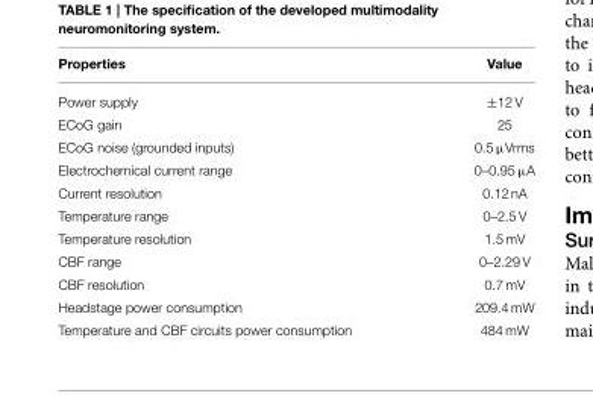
<table><thead><tr><td>Properties</td><td>Value</td></tr></thead><tbody><tr><td>Power supply</td><td>±12 V</td></tr><tr><td>ECoG gain</td><td>25</td></tr><tr><td>ECoG noise (grounded inputs)</td><td>0.5 µVrms</td></tr><tr><td>Electrochemical current range</td><td>0–0.95 µA</td></tr><tr><td>Current resolution</td><td>0.12 nA</td></tr><tr><td>Temperature range</td><td>0–2.5 V</td></tr><tr><td>Temperature resolution</td><td>1.5 mV</td></tr><tr><td>CBF range</td><td>0–2.29 V</td></tr><tr><td>CBF resolution</td><td>0.7 mV</td></tr><tr><td>Headstage power consumption</td><td>209.4 mW</td></tr><tr><td>Temperature and CBF circuits power consumption</td><td>484 mW</td></tr></tbody></table>